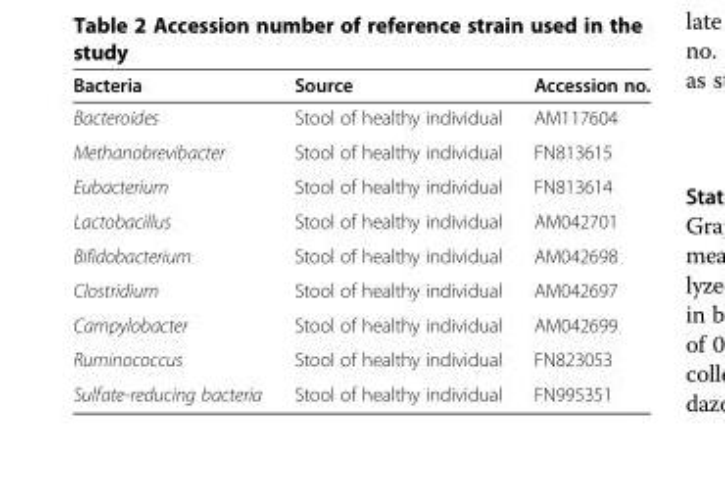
<table><thead><tr><td>Bacteria</td><td>Source</td><td>Accession no.</td></tr></thead><tbody><tr><td>Bacteroides</td><td>Stool of healthy individual</td><td>AM117604</td></tr><tr><td>Methanobrevibacter</td><td>Stool of healthy individual</td><td>FN813615</td></tr><tr><td>Eubacterium</td><td>Stool of healthy individual</td><td>FN813614</td></tr><tr><td>Lactobacillus</td><td>Stool of healthy individual</td><td>AM042701</td></tr><tr><td>Bifidobacterium</td><td>Stool of healthy individual</td><td>AM042698</td></tr><tr><td>Clostridium</td><td>Stool of healthy individual</td><td>AM042697</td></tr><tr><td>Campylobacter</td><td>Stool of healthy individual</td><td>AM042699</td></tr><tr><td>Ruminococcus</td><td>Stool of healthy individual</td><td>FN823053</td></tr><tr><td>Sulfate-reducing bacteria</td><td>Stool of healthy individual</td><td>FN995351</td></tr></tbody></table>